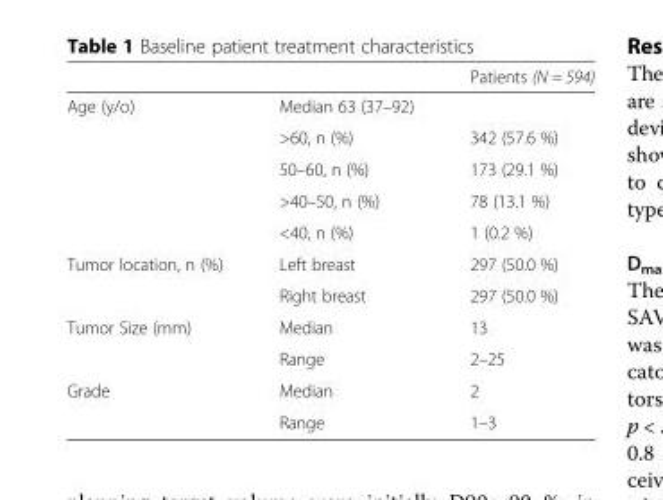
<table><thead><tr><td></td><td></td><td>Patients (N = 594)</td></tr></thead><tbody><tr><td rowspan="5">Age (y/o)</td><td>Median 63 (37–92)</td><td></td></tr><tr><td>&gt;60, n (%)</td><td>342 (57.6 %)</td></tr><tr><td>50–60, n (%)</td><td>173 (29.1 %)</td></tr><tr><td>&gt;40–50, n (%)</td><td>78 (13.1 %)</td></tr><tr><td>&lt;40, n (%)</td><td>1 (0.2 %)</td></tr><tr><td rowspan="2">Tumor location, n (%)</td><td>Left breast</td><td>297 (50.0 %)</td></tr><tr><td>Right breast</td><td>297 (50.0 %)</td></tr><tr><td rowspan="2">Tumor Size (mm)</td><td>Median</td><td>13</td></tr><tr><td>Range</td><td>2–25</td></tr><tr><td rowspan="2">Grade</td><td>Median</td><td>2</td></tr><tr><td>Range</td><td>1–3</td></tr></tbody></table>